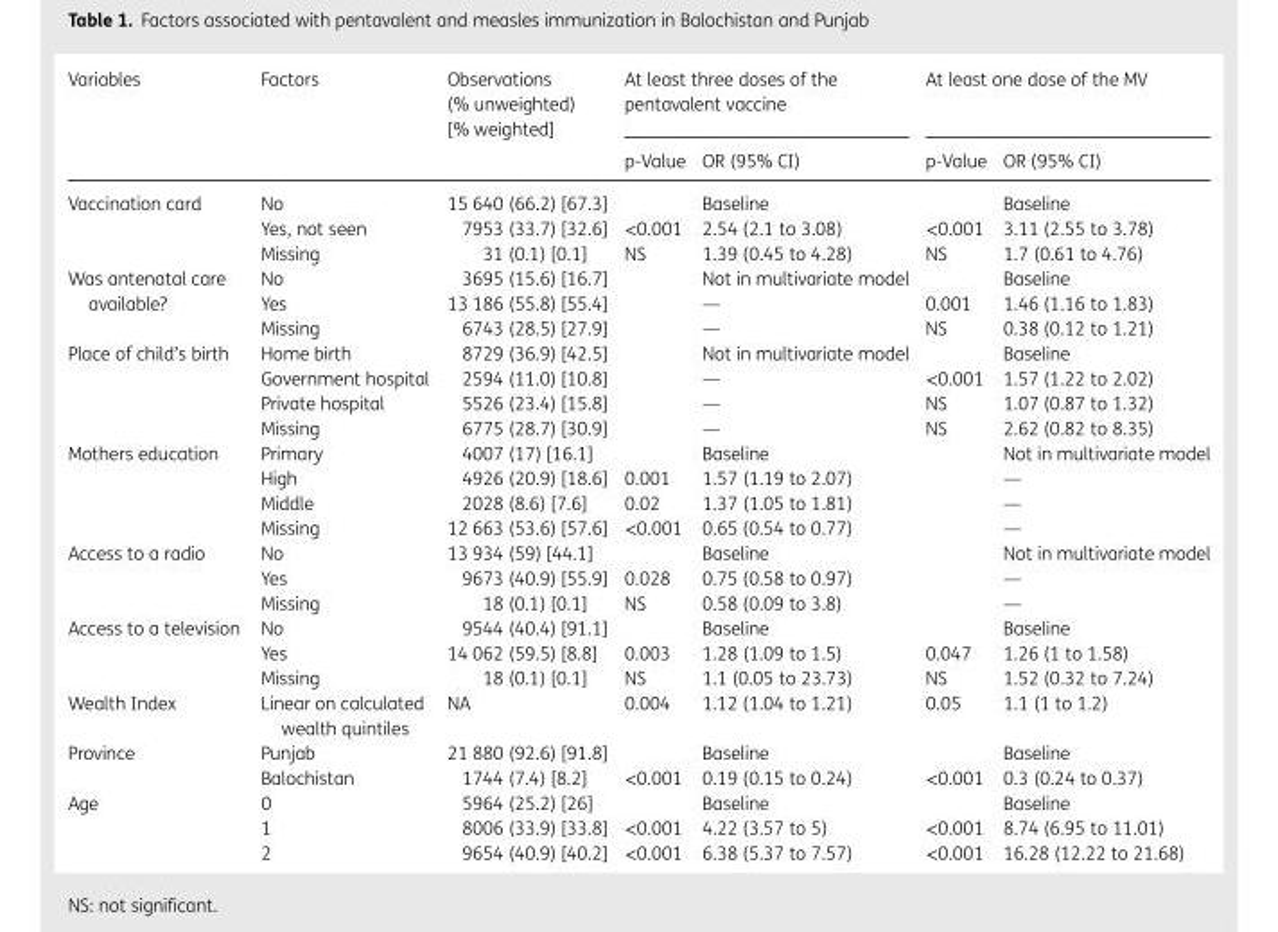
<table><thead><tr><td rowspan="2">Variables</td><td rowspan="2">Factors</td><td rowspan="2">Observations (% unweighted) [% weighted]</td><td colspan="2">At least three doses of the pentavalent vaccine</td><td colspan="2">At least one dose of the MV</td></tr><tr><td>p-Value</td><td>OR (95% CI)</td><td>p-Value</td><td>OR (95% CI)</td></tr></thead><tbody><tr><td rowspan="3">Vaccination card</td><td>No</td><td>15 640 (66.2) [67.3]</td><td></td><td>Baseline</td><td></td><td>Baseline</td></tr><tr><td>Yes, not seen</td><td>7953 (33.7) [32.6]</td><td>&lt;0.001</td><td>2.54 (2.1 to 3.08)</td><td>&lt;0.001</td><td>3.11 (2.55 to 3.78)</td></tr><tr><td>Missing</td><td>31 (0.1) [0.1]</td><td>NS</td><td>1.39 (0.45 to 4.28)</td><td>NS</td><td>1.7 (0.61 to 4.76)</td></tr><tr><td rowspan="3">Was antenatal care available?</td><td>No</td><td>3695 (15.6) [16.7]</td><td></td><td>Not in multivariate model</td><td></td><td>Baseline</td></tr><tr><td>Yes</td><td>13 186 (55.8) [55.4]</td><td></td><td>—</td><td>0.001</td><td>1.46 (1.16 to 1.83)</td></tr><tr><td>Missing</td><td>6743 (28.5) [27.9]</td><td></td><td>—</td><td>NS</td><td>0.38 (0.12 to 1.21)</td></tr><tr><td rowspan="4">Place of child’s birth</td><td>Home birth</td><td>8729 (36.9) [42.5]</td><td></td><td>Not in multivariate model</td><td></td><td>Baseline</td></tr><tr><td>Government hospital</td><td>2594 (11.0) [10.8]</td><td></td><td>—</td><td>&lt;0.001</td><td>1.57 (1.22 to 2.02)</td></tr><tr><td>Private hospital</td><td>5526 (23.4) [15.8]</td><td></td><td>—</td><td>NS</td><td>1.07 (0.87 to 1.32)</td></tr><tr><td>Missing</td><td>6775 (28.7) [30.9]</td><td></td><td>—</td><td>NS</td><td>2.62 (0.82 to 8.35)</td></tr><tr><td rowspan="4">Mothers education</td><td>Primary</td><td>4007 (17) [16.1]</td><td></td><td>Baseline</td><td></td><td>Not in multivariate model</td></tr><tr><td>High</td><td>4926 (20.9) [18.6]</td><td>0.001</td><td>1.57 (1.19 to 2.07)</td><td></td><td>—</td></tr><tr><td>Middle</td><td>2028 (8.6) [7.6]</td><td>0.02</td><td>1.37 (1.05 to 1.81)</td><td></td><td>—</td></tr><tr><td>Missing</td><td>12 663 (53.6) [57.6]</td><td>&lt;0.001</td><td>0.65 (0.54 to 0.77)</td><td></td><td>—</td></tr><tr><td rowspan="3">Access to a radio</td><td>No</td><td>13 934 (59) [44.1]</td><td></td><td>Baseline</td><td></td><td>Not in multivariate model</td></tr><tr><td>Yes</td><td>9673 (40.9) [55.9]</td><td>0.028</td><td>0.75 (0.58 to 0.97)</td><td></td><td>—</td></tr><tr><td>Missing</td><td>18 (0.1) [0.1]</td><td>NS</td><td>0.58 (0.09 to 3.8)</td><td></td><td>—</td></tr><tr><td rowspan="3">Access to a television</td><td>No</td><td>9544 (40.4) [91.1]</td><td></td><td>Baseline</td><td></td><td>Baseline</td></tr><tr><td>Yes</td><td>14 062 (59.5) [8.8]</td><td>0.003</td><td>1.28 (1.09 to 1.5)</td><td>0.047</td><td>1.26 (1 to 1.58)</td></tr><tr><td>Missing</td><td>18 (0.1) [0.1]</td><td>NS</td><td>1.1 (0.05 to 23.73)</td><td>NS</td><td>1.52 (0.32 to 7.24)</td></tr><tr><td>Wealth Index</td><td>Linear on calculated wealth quintiles</td><td>NA</td><td>0.004</td><td>1.12 (1.04 to 1.21)</td><td>0.05</td><td>1.1 (1 to 1.2)</td></tr><tr><td rowspan="2">Province</td><td>Punjab</td><td>21 880 (92.6) [91.8]</td><td></td><td>Baseline</td><td></td><td>Baseline</td></tr><tr><td>Balochistan</td><td>1744 (7.4) [8.2]</td><td>&lt;0.001</td><td>0.19 (0.15 to 0.24)</td><td>&lt;0.001</td><td>0.3 (0.24 to 0.37)</td></tr><tr><td rowspan="3">Age</td><td>0</td><td>5964 (25.2) [26]</td><td></td><td>Baseline</td><td></td><td>Baseline</td></tr><tr><td>1</td><td>8006 (33.9) [33.8]</td><td>&lt;0.001</td><td>4.22 (3.57 to 5)</td><td>&lt;0.001</td><td>8.74 (6.95 to 11.01)</td></tr><tr><td>2</td><td>9654 (40.9) [40.2]</td><td>&lt;0.001</td><td>6.38 (5.37 to 7.57)</td><td>&lt;0.001</td><td>16.28 (12.22 to 21.68)</td></tr></tbody></table>